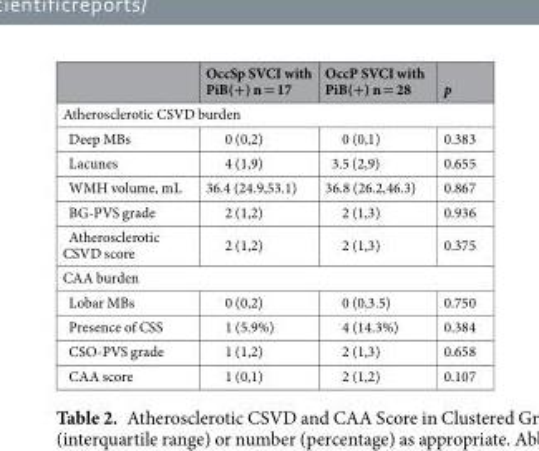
<table><thead><tr><td></td><td>OccSp SVCI with PiB(+) n = 17</td><td>OccP SVCI with PiB(+) n = 28</td><td>p</td></tr></thead><tbody><tr><td colspan="4">Atherosclerotic CSVD burden</td></tr><tr><td>Deep MBs</td><td>0 (0,2)</td><td>0 (0,1)</td><td>0.383</td></tr><tr><td>Lacunes</td><td>4 (1,9)</td><td>3.5 (2,9)</td><td>0.655</td></tr><tr><td>WMH volume, mL</td><td>36.4 (24.9,53.1)</td><td>36.8 (26.2,46.3)</td><td>0.867</td></tr><tr><td>BG-PVS grade</td><td>2 (1,2)</td><td>2 (1,3)</td><td>0.936</td></tr><tr><td>Atherosclerotic CSVD score</td><td>2 (1,2)</td><td>2 (1,3)</td><td>0.375</td></tr><tr><td colspan="4">CAA burden</td></tr><tr><td>Lobar MBs</td><td>0 (0,2)</td><td>0 (0,3.5)</td><td>0.750</td></tr><tr><td>Presence of CSS</td><td>1 (5.9%)</td><td>4 (14.3%)</td><td>0.384</td></tr><tr><td>CSO-PVS grade</td><td>1 (1,2)</td><td>2 (1,3)</td><td>0.658</td></tr><tr><td>CAA score</td><td>1 (0,1)</td><td>2 (1,2)</td><td>0.107</td></tr></tbody></table>